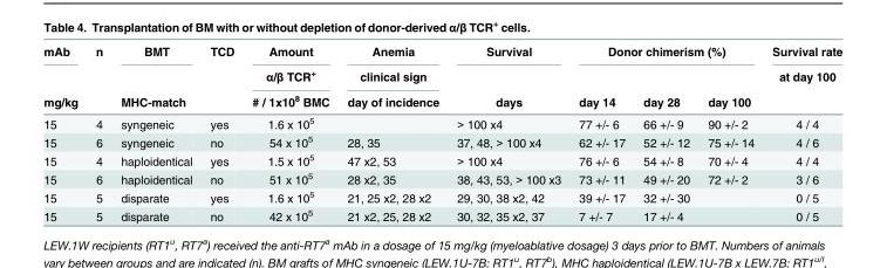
<table><thead><tr><td rowspan="3">mAb mg/kg</td><td rowspan="3">n</td><td rowspan="3">BMT MHC-match</td><td rowspan="3">TCD</td><td rowspan="3">Amount α/β TCR<sup>+</sup> # / 1x10<sup>8</sup> BMC</td><td rowspan="3">Anemia clinical sign day of incidence</td><td rowspan="3">Survival days</td><td colspan="3">Donor chimerism (%)</td><td rowspan="3">Survival rate at day 100</td></tr><tr><td rowspan="2">day 14</td><td rowspan="2">day 28</td><td rowspan="2">day 100</td></tr><tr></tr></thead><tbody><tr><td>15</td><td>4</td><td>syngeneic</td><td>yes</td><td>1.6 x 10<sup>5</sup></td><td></td><td>&gt; 100 x4</td><td>77 +/- 6</td><td>66 +/- 9</td><td>90 +/- 2</td><td>4 / 4</td></tr><tr><td>15</td><td>6</td><td>syngeneic</td><td>no</td><td>54 x 10<sup>5</sup></td><td>28, 35</td><td>37, 48, &gt; 100 x4</td><td>62 +/- 17</td><td>52 +/- 12</td><td>75 +/- 14</td><td>4 / 6</td></tr><tr><td>15</td><td>4</td><td>haploidentical</td><td>yes</td><td>1.5 x 10<sup>5</sup></td><td>47 x2, 53</td><td>&gt; 100 x4</td><td>76 +/- 6</td><td>54 +/- 8</td><td>70 +/- 4</td><td>4 / 4</td></tr><tr><td>15</td><td>6</td><td>haploidentical</td><td>no</td><td>51 x 10<sup>5</sup></td><td>28 x2, 35</td><td>38, 43, 53, &gt; 100 x3</td><td>73 +/- 11</td><td>49 +/- 20</td><td>72 +/- 2</td><td>3 / 6</td></tr><tr><td>15</td><td>5</td><td>disparate</td><td>yes</td><td>1.6 x 10<sup>5</sup></td><td>21, 25 x2, 28 x2</td><td>29, 30, 38 x2, 42</td><td>39 +/- 17</td><td>32 +/- 30</td><td></td><td>0 / 5</td></tr><tr><td>15</td><td>5</td><td>disparate</td><td>no</td><td>42 x 10<sup>5</sup></td><td>21 x2, 25, 28 x2</td><td>30, 32, 35 x2, 37</td><td>7 +/- 7</td><td>17 +/- 4</td><td></td><td>0 / 5</td></tr></tbody></table>